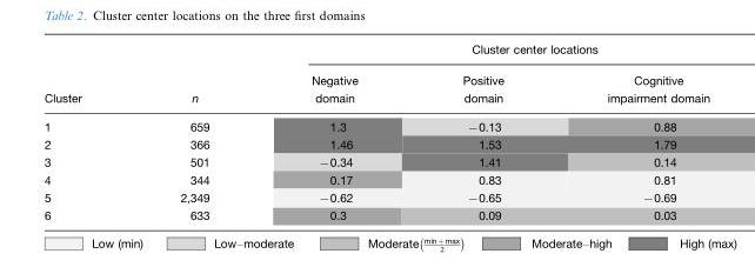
<table><thead><tr><td rowspan="2">Cluster</td><td rowspan="2">n</td><td colspan="3">Cluster center locations</td></tr><tr><td>Negative domain</td><td>Positive domain</td><td>Cognitive impairment domain</td></tr></thead><tbody><tr><td>1</td><td>659</td><td>1.3</td><td>-0.13</td><td>0.88</td></tr><tr><td>2</td><td>366</td><td>1.46</td><td>1.53</td><td>1.79</td></tr><tr><td>3</td><td>501</td><td>-0.34</td><td>1.41</td><td>0.14</td></tr><tr><td>4</td><td>344</td><td>0.17</td><td>0.83</td><td>0.81</td></tr><tr><td>5</td><td>2,349</td><td>-0.62</td><td>-0.65</td><td>-0.69</td></tr><tr><td>6</td><td>633</td><td>0.3</td><td>0.09</td><td>0.03</td></tr></tbody></table>